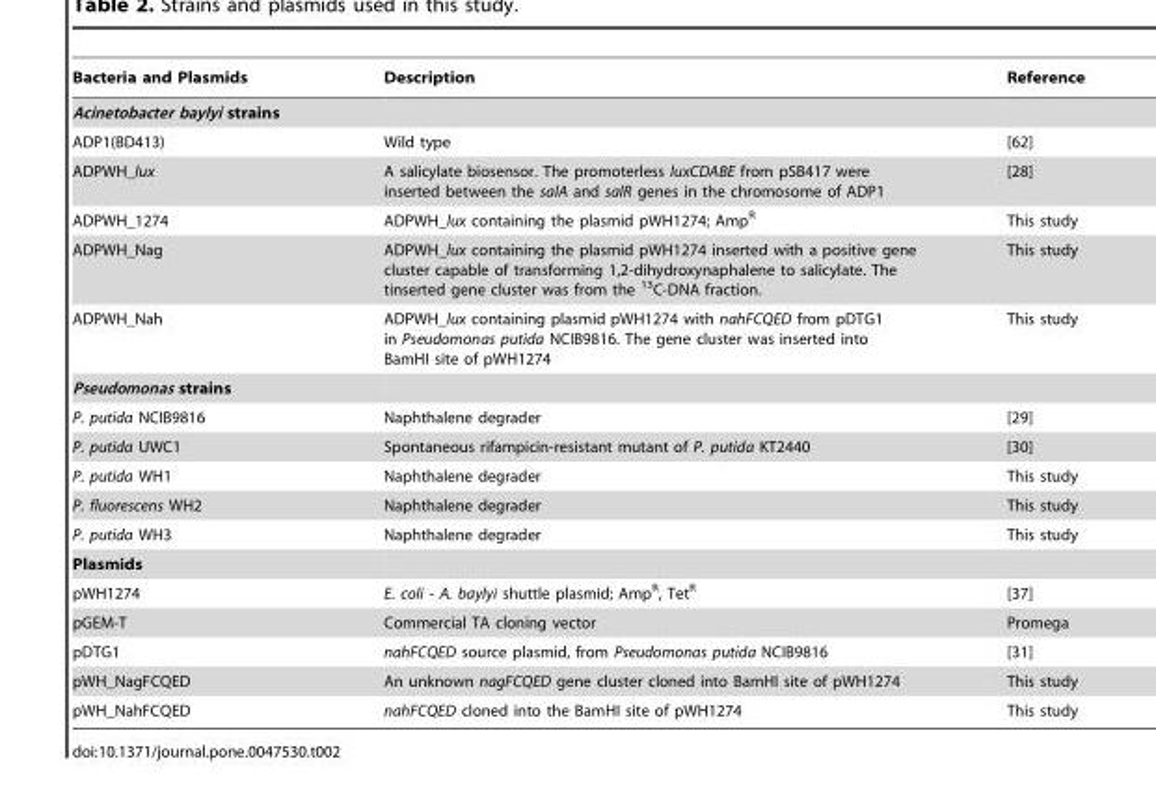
<table><thead><tr><td>Bacteria and Plasmids</td><td>Description</td><td>Reference</td></tr></thead><tbody><tr><td colspan="3">Acinetobacter baylyi strains</td></tr><tr><td>ADP1(BD413)</td><td>Wild type</td><td>[62]</td></tr><tr><td>ADPWH_lux</td><td>A salicylate biosensor. The promoterless luxCDABE from pSB417 were inserted between the salA and salR genes in the chromosome of ADP1</td><td>[28]</td></tr><tr><td>ADPWH_1274</td><td>ADPWH_lux containing the plasmid pWH1274; Amp<sup>R</sup></td><td>This study</td></tr><tr><td>ADPWH_Nag</td><td>ADPWH_lux containing the plasmid pWH1274 inserted with a positive gene cluster capable of transforming 1,2-dihydroxynaphalene to salicylate. The tinserted gene cluster was from the <sup>13</sup>C-DNA fraction.</td><td>This study</td></tr><tr><td>ADPWH_Nah</td><td>ADPWH_lux containing plasmid pWH1274 with nahFCQED from pDTG1 in Pseudomonas putida NCIB9816. The gene cluster was inserted into BamHI site of pWH1274</td><td>This study</td></tr><tr><td colspan="3">Pseudomonas strains</td></tr><tr><td>P. putida NCIB9816</td><td>Naphthalene degrader</td><td>[29]</td></tr><tr><td>P. putida UWC1</td><td>Spontaneous rifampicin-resistant mutant of P. putida KT2440</td><td>[30]</td></tr><tr><td>P. putida WH1</td><td>Naphthalene degrader</td><td>This study</td></tr><tr><td>P. fluorescens WH2</td><td>Naphthalene degrader</td><td>This study</td></tr><tr><td>P. putida WH3</td><td>Naphthalene degrader</td><td>This study</td></tr><tr><td colspan="3">Plasmids</td></tr><tr><td>pWH1274</td><td>E. coli - A. baylyi shuttle plasmid; Amp<sup>R</sup>, Tet<sup>R</sup></td><td>[37]</td></tr><tr><td>pGEM-T</td><td>Commercial TA cloning vector</td><td>Promega</td></tr><tr><td>pDTG1</td><td>nahFCQED source plasmid, from Pseudomonas putida NCIB9816</td><td>[31]</td></tr><tr><td>pWH_NagFCQED</td><td>An unknown nagFCQED gene cluster cloned into BamHI site of pWH1274</td><td>This study</td></tr><tr><td>pWH_NahFCQED</td><td>nahFCQED cloned into the BamHI site of pWH1274</td><td>This study</td></tr></tbody></table>